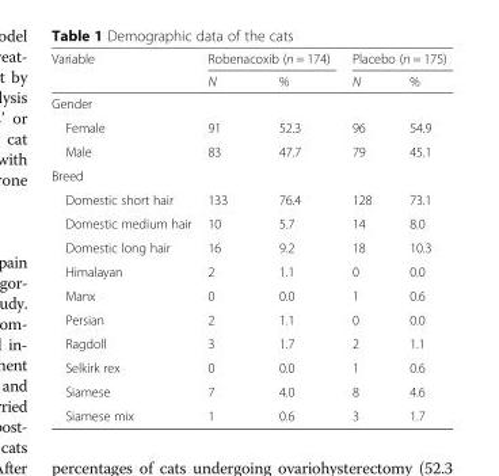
<table><thead><tr><td rowspan="2">Variable</td><td colspan="2">Robenacoxib (n = 174)</td><td colspan="2">Placebo (n = 175)</td></tr><tr><td>N</td><td>%</td><td>N</td><td>%</td></tr></thead><tbody><tr><td colspan="5">Gender</td></tr><tr><td>Female</td><td>91</td><td>52.3</td><td>96</td><td>54.9</td></tr><tr><td>Male</td><td>83</td><td>47.7</td><td>79</td><td>45.1</td></tr><tr><td colspan="5">Breed</td></tr><tr><td>Domestic short hair</td><td>133</td><td>76.4</td><td>128</td><td>73.1</td></tr><tr><td>Domestic medium hair</td><td>10</td><td>5.7</td><td>14</td><td>8.0</td></tr><tr><td>Domestic long hair</td><td>16</td><td>9.2</td><td>18</td><td>10.3</td></tr><tr><td>Himalayan</td><td>2</td><td>1.1</td><td>0</td><td>0.0</td></tr><tr><td>Manx</td><td>0</td><td>0.0</td><td>1</td><td>0.6</td></tr><tr><td>Persian</td><td>2</td><td>1.1</td><td>0</td><td>0.0</td></tr><tr><td>Ragdoll</td><td>3</td><td>1.7</td><td>2</td><td>1.1</td></tr><tr><td>Selkirk rex</td><td>0</td><td>0.0</td><td>1</td><td>0.6</td></tr><tr><td>Siamese</td><td>7</td><td>4.0</td><td>8</td><td>4.6</td></tr><tr><td>Siamese mix</td><td>1</td><td>0.6</td><td>3</td><td>1.7</td></tr></tbody></table>